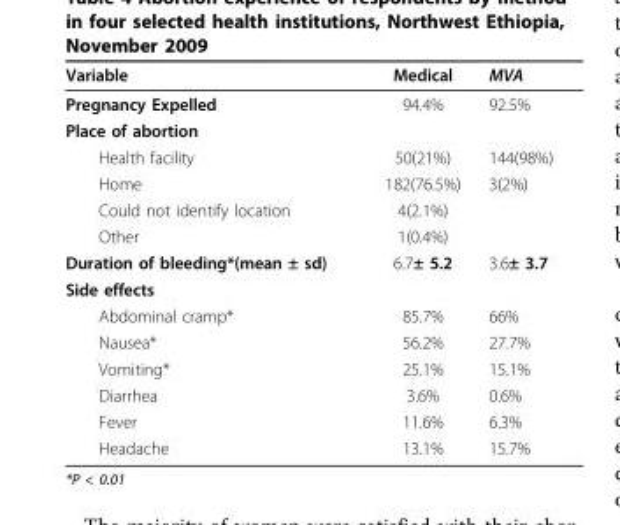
<table><thead><tr><td>Variable</td><td>Medical</td><td>MVA</td></tr></thead><tbody><tr><td>Pregnancy Expelled</td><td>94.4%</td><td>92.5%</td></tr><tr><td colspan="3">Place of abortion</td></tr><tr><td>Health facility</td><td>50(21%)</td><td>144(98%)</td></tr><tr><td>Home</td><td>182(76.5%)</td><td>3(2%)</td></tr><tr><td>Could not identify location</td><td>4(2.1%)</td><td></td></tr><tr><td>Other</td><td>1(0.4%)</td><td></td></tr><tr><td>Duration of bleeding*(mean ± sd)</td><td>6.7± 5.2</td><td>3.6± 3.7</td></tr><tr><td colspan="3">Side effects</td></tr><tr><td>Abdominal cramp*</td><td>85.7%</td><td>66%</td></tr><tr><td>Nausea*</td><td>56.2%</td><td>27.7%</td></tr><tr><td>Vomiting*</td><td>25.1%</td><td>15.1%</td></tr><tr><td>Diarrhea</td><td>3.6%</td><td>0.6%</td></tr><tr><td>Fever</td><td>11.6%</td><td>6.3%</td></tr><tr><td>Headache</td><td>13.1%</td><td>15.7%</td></tr></tbody></table>